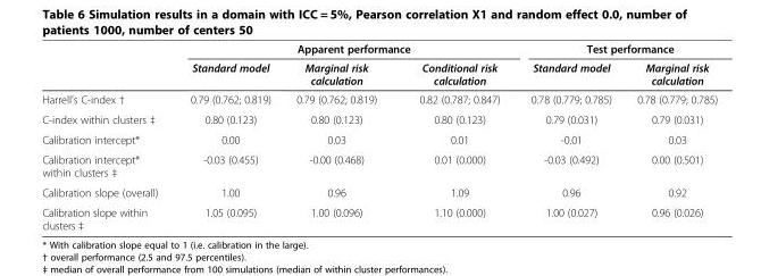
<table><thead><tr><td rowspan="2"></td><td colspan="3">Apparent performance</td><td colspan="2">Test performance</td></tr><tr><td>Standard model</td><td>Marginal risk calculation</td><td>Conditional risk calculation</td><td>Standard model</td><td>Marginal risk calculation</td></tr></thead><tbody><tr><td>Harrell’s C-index †</td><td>0.79 (0.762; 0.819)</td><td>0.79 (0.762; 0.819)</td><td>0.82 (0.787; 0.847)</td><td>0.78 (0.779; 0.785)</td><td>0.78 (0.779; 0.785)</td></tr><tr><td>C-index within clusters ‡</td><td>0.80 (0.123)</td><td>0.80 (0.123)</td><td>0.80 (0.123)</td><td>0.79 (0.031)</td><td>0.79 (0.031)</td></tr><tr><td>Calibration intercept*</td><td>0.00</td><td>0.03</td><td>0.01</td><td>-0.01</td><td>0.03</td></tr><tr><td>Calibration intercept* within clusters ‡</td><td>-0.03 (0.455)</td><td>-0.00 (0.468)</td><td>0.01 (0.000)</td><td>-0.03 (0.492)</td><td>0.00 (0.501)</td></tr><tr><td>Calibration slope (overall)</td><td>1.00</td><td>0.96</td><td>1.09</td><td>0.96</td><td>0.92</td></tr><tr><td>Calibration slope within clusters ‡</td><td>1.05 (0.095)</td><td>1.00 (0.096)</td><td>1.10 (0.000)</td><td>1.00 (0.027)</td><td>0.96 (0.026)</td></tr></tbody></table>